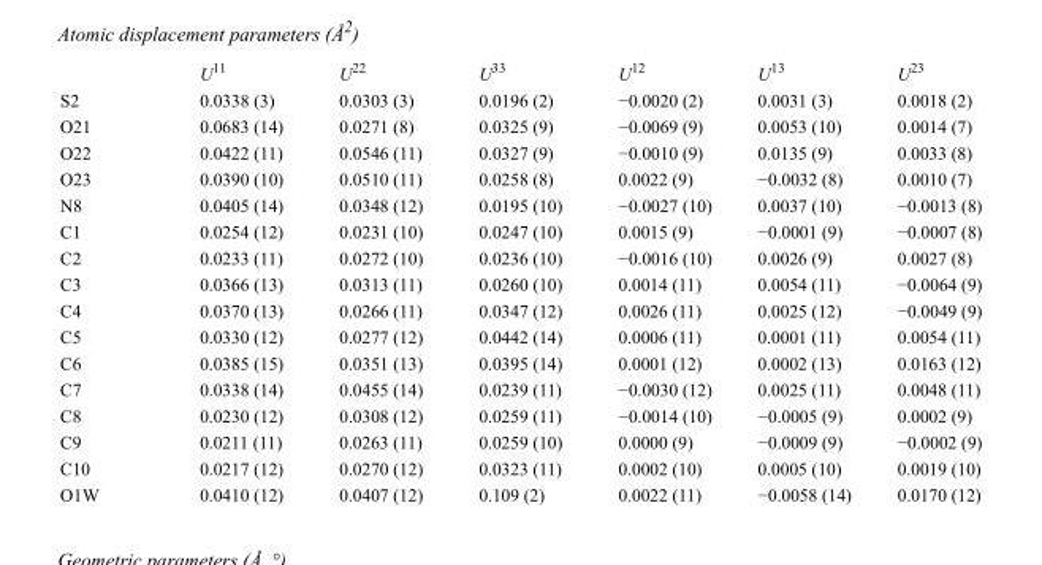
<table><thead><tr><td></td><td>U<sup>11</sup></td><td>U<sup>22</sup></td><td>U<sup>33</sup></td><td>U<sup>12</sup></td><td>U<sup>13</sup></td><td>U<sup>23</sup></td></tr></thead><tbody><tr><td>S2</td><td>0.0338 (3)</td><td>0.0303 (3)</td><td>0.0196 (2)</td><td>−0.0020 (2)</td><td>0.0031 (3)</td><td>0.0018 (2)</td></tr><tr><td>O21</td><td>0.0683 (14)</td><td>0.0271 (8)</td><td>0.0325 (9)</td><td>−0.0069 (9)</td><td>0.0053 (10)</td><td>0.0014 (7)</td></tr><tr><td>O22</td><td>0.0422 (11)</td><td>0.0546 (11)</td><td>0.0327 (9)</td><td>−0.0010 (9)</td><td>0.0135 (9)</td><td>0.0033 (8)</td></tr><tr><td>O23</td><td>0.0390 (10)</td><td>0.0510 (11)</td><td>0.0258 (8)</td><td>0.0022 (9)</td><td>−0.0032 (8)</td><td>0.0010 (7)</td></tr><tr><td>N8</td><td>0.0405 (14)</td><td>0.0348 (12)</td><td>0.0195 (10)</td><td>−0.0027 (10)</td><td>0.0037 (10)</td><td>−0.0013 (8)</td></tr><tr><td>C1</td><td>0.0254 (12)</td><td>0.0231 (10)</td><td>0.0247 (10)</td><td>0.0015 (9)</td><td>−0.0001 (9)</td><td>−0.0007 (8)</td></tr><tr><td>C2</td><td>0.0233 (11)</td><td>0.0272 (10)</td><td>0.0236 (10)</td><td>−0.0016 (10)</td><td>0.0026 (9)</td><td>0.0027 (8)</td></tr><tr><td>C3</td><td>0.0366 (13)</td><td>0.0313 (11)</td><td>0.0260 (10)</td><td>0.0014 (11)</td><td>0.0054 (11)</td><td>−0.0064 (9)</td></tr><tr><td>C4</td><td>0.0370 (13)</td><td>0.0266 (11)</td><td>0.0347 (12)</td><td>0.0026 (11)</td><td>0.0025 (12)</td><td>−0.0049 (9)</td></tr><tr><td>C5</td><td>0.0330 (12)</td><td>0.0277 (12)</td><td>0.0442 (14)</td><td>0.0006 (11)</td><td>0.0001 (11)</td><td>0.0054 (11)</td></tr><tr><td>C6</td><td>0.0385 (15)</td><td>0.0351 (13)</td><td>0.0395 (14)</td><td>0.0001 (12)</td><td>0.0002 (13)</td><td>0.0163 (12)</td></tr><tr><td>C7</td><td>0.0338 (14)</td><td>0.0455 (14)</td><td>0.0239 (11)</td><td>−0.0030 (12)</td><td>0.0025 (11)</td><td>0.0048 (11)</td></tr><tr><td>C8</td><td>0.0230 (12)</td><td>0.0308 (12)</td><td>0.0259 (11)</td><td>−0.0014 (10)</td><td>−0.0005 (9)</td><td>0.0002 (9)</td></tr><tr><td>C9</td><td>0.0211 (11)</td><td>0.0263 (11)</td><td>0.0259 (10)</td><td>0.0000 (9)</td><td>−0.0009 (9)</td><td>−0.0002 (9)</td></tr><tr><td>C10</td><td>0.0217 (12)</td><td>0.0270 (12)</td><td>0.0323 (11)</td><td>0.0002 (10)</td><td>0.0005 (10)</td><td>0.0019 (10)</td></tr><tr><td>O1W</td><td>0.0410 (12)</td><td>0.0407 (12)</td><td>0.109 (2)</td><td>0.0022 (11)</td><td>−0.0058 (14)</td><td>0.0170 (12)</td></tr></tbody></table>